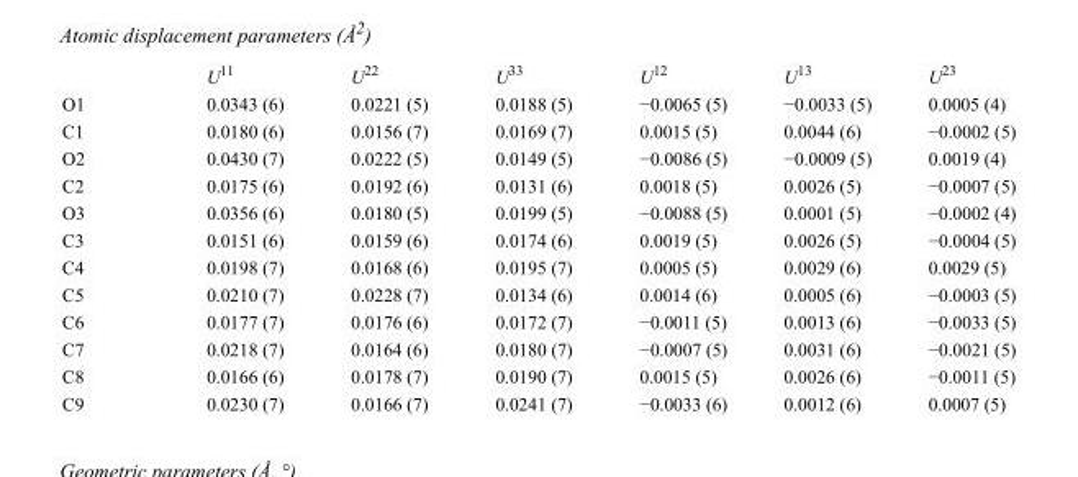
<table><thead><tr><td></td><td>U<sup>11</sup></td><td>U<sup>22</sup></td><td>U<sup>33</sup></td><td>U<sup>12</sup></td><td>U<sup>13</sup></td><td>U<sup>23</sup></td></tr></thead><tbody><tr><td>O1</td><td>0.0343 (6)</td><td>0.0221 (5)</td><td>0.0188 (5)</td><td>−0.0065 (5)</td><td>−0.0033 (5)</td><td>0.0005 (4)</td></tr><tr><td>C1</td><td>0.0180 (6)</td><td>0.0156 (7)</td><td>0.0169 (7)</td><td>0.0015 (5)</td><td>0.0044 (6)</td><td>−0.0002 (5)</td></tr><tr><td>O2</td><td>0.0430 (7)</td><td>0.0222 (5)</td><td>0.0149 (5)</td><td>−0.0086 (5)</td><td>−0.0009 (5)</td><td>0.0019 (4)</td></tr><tr><td>C2</td><td>0.0175 (6)</td><td>0.0192 (6)</td><td>0.0131 (6)</td><td>0.0018 (5)</td><td>0.0026 (5)</td><td>−0.0007 (5)</td></tr><tr><td>O3</td><td>0.0356 (6)</td><td>0.0180 (5)</td><td>0.0199 (5)</td><td>−0.0088 (5)</td><td>0.0001 (5)</td><td>−0.0002 (4)</td></tr><tr><td>C3</td><td>0.0151 (6)</td><td>0.0159 (6)</td><td>0.0174 (6)</td><td>0.0019 (5)</td><td>0.0026 (5)</td><td>−0.0004 (5)</td></tr><tr><td>C4</td><td>0.0198 (7)</td><td>0.0168 (6)</td><td>0.0195 (7)</td><td>0.0005 (5)</td><td>0.0029 (6)</td><td>0.0029 (5)</td></tr><tr><td>C5</td><td>0.0210 (7)</td><td>0.0228 (7)</td><td>0.0134 (6)</td><td>0.0014 (6)</td><td>0.0005 (6)</td><td>−0.0003 (5)</td></tr><tr><td>C6</td><td>0.0177 (7)</td><td>0.0176 (6)</td><td>0.0172 (7)</td><td>−0.0011 (5)</td><td>0.0013 (6)</td><td>−0.0033 (5)</td></tr><tr><td>C7</td><td>0.0218 (7)</td><td>0.0164 (6)</td><td>0.0180 (7)</td><td>−0.0007 (5)</td><td>0.0031 (6)</td><td>−0.0021 (5)</td></tr><tr><td>C8</td><td>0.0166 (6)</td><td>0.0178 (7)</td><td>0.0190 (7)</td><td>0.0015 (5)</td><td>0.0026 (6)</td><td>−0.0011 (5)</td></tr><tr><td>C9</td><td>0.0230 (7)</td><td>0.0166 (7)</td><td>0.0241 (7)</td><td>−0.0033 (6)</td><td>0.0012 (6)</td><td>0.0007 (5)</td></tr></tbody></table>